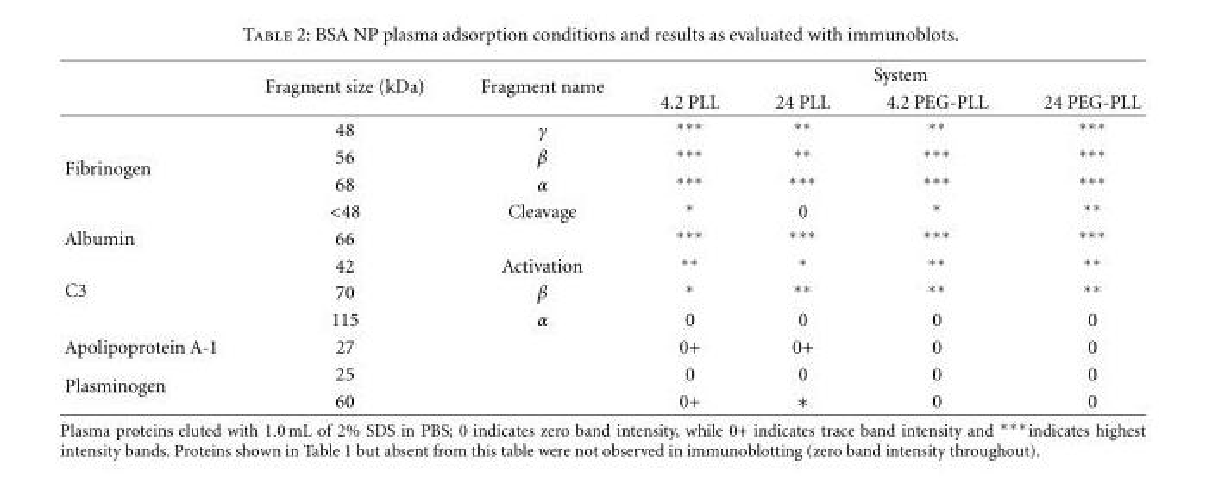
<table><thead><tr><td rowspan="2"></td><td rowspan="2">Fragment size (kDa)</td><td rowspan="2">Fragment name</td><td colspan="4">System</td></tr><tr><td>4.2 PLL</td><td>24 PLL</td><td>4.2 PEG-PLL</td><td>24 PEG-PLL</td></tr></thead><tbody><tr><td rowspan="4">Fibrinogen</td><td>48</td><td>γ</td><td>∗∗∗</td><td>∗∗</td><td>∗∗</td><td>∗∗∗</td></tr><tr><td>56</td><td>β</td><td>∗∗∗</td><td>∗∗</td><td>∗∗∗</td><td>∗∗∗</td></tr><tr><td>68</td><td>α</td><td>∗∗∗</td><td>∗∗∗</td><td>∗∗∗</td><td>∗∗∗</td></tr><tr><td>&lt;48</td><td>Cleavage</td><td>∗</td><td>0</td><td>∗</td><td>∗∗</td></tr><tr><td>Albumin</td><td>66</td><td></td><td>∗∗∗</td><td>∗∗∗</td><td>∗∗∗</td><td>∗∗∗</td></tr><tr><td rowspan="3">C3</td><td>42</td><td>Activation</td><td>∗∗</td><td>∗</td><td>∗∗</td><td>∗∗</td></tr><tr><td>70</td><td>β</td><td>∗</td><td>∗∗</td><td>∗∗</td><td>∗∗</td></tr><tr><td>115</td><td>α</td><td>0</td><td>0</td><td>0</td><td>0</td></tr><tr><td>Apolipoprotein A-1</td><td>27</td><td></td><td>0+</td><td>0+</td><td>0</td><td>0</td></tr><tr><td rowspan="2">Plasminogen</td><td>25</td><td></td><td>0</td><td>0</td><td>0</td><td>0</td></tr><tr><td>60</td><td></td><td>0+</td><td>∗</td><td>0</td><td>0</td></tr></tbody></table>